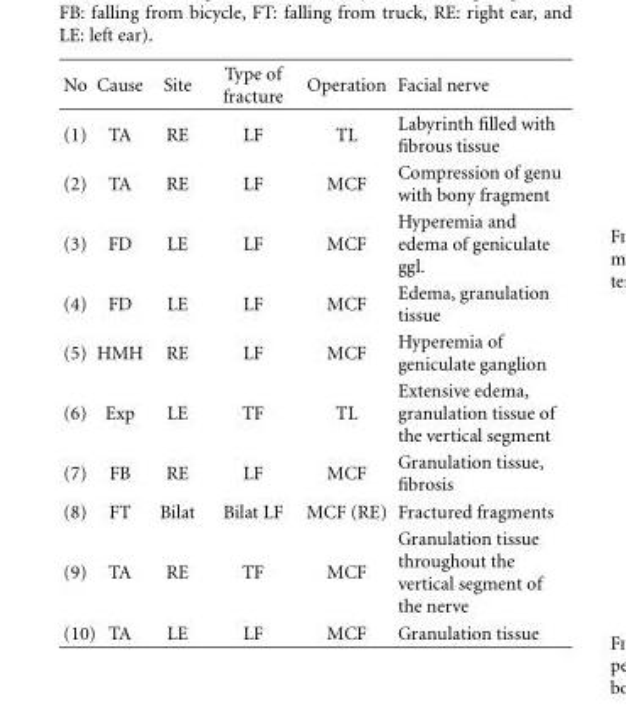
<table><thead><tr><td>No</td><td>Cause</td><td>Site</td><td>Type of fracture</td><td>Operation</td><td>Facial nerve</td></tr></thead><tbody><tr><td>(1)</td><td>TA</td><td>RE</td><td>LF</td><td>TL</td><td>Labyrinth filled with fibrous tissue</td></tr><tr><td>(2)</td><td>TA</td><td>RE</td><td>LF</td><td>MCF</td><td>Compression of genu with bony fragment</td></tr><tr><td>(3)</td><td>FD</td><td>LE</td><td>LF</td><td>MCF</td><td>Hyperemia and edema of geniculate ggl.</td></tr><tr><td>(4)</td><td>FD</td><td>LE</td><td>LF</td><td>MCF</td><td>Edema, granulation tissue</td></tr><tr><td>(5)</td><td>HMH</td><td>RE</td><td>LF</td><td>MCF</td><td>Hyperemia of geniculate ganglion</td></tr><tr><td>(6)</td><td>Exp</td><td>LE</td><td>TF</td><td>TL</td><td>Extensive edema, granulation tissue of the vertical segment</td></tr><tr><td>(7)</td><td>FB</td><td>RE</td><td>LF</td><td>MCF</td><td>Granulation tissue, fibrosis</td></tr><tr><td>(8)</td><td>FT</td><td>Bilat</td><td>Bilat LF</td><td>MCF (RE)</td><td>Fractured fragments</td></tr><tr><td>(9)</td><td>TA</td><td>RE</td><td>TF</td><td>MCF</td><td>Granulation tissue throughout the vertical segment of the nerve</td></tr><tr><td>(10)</td><td>TA</td><td>LE</td><td>LF</td><td>MCF</td><td>Granulation tissue</td></tr></tbody></table>